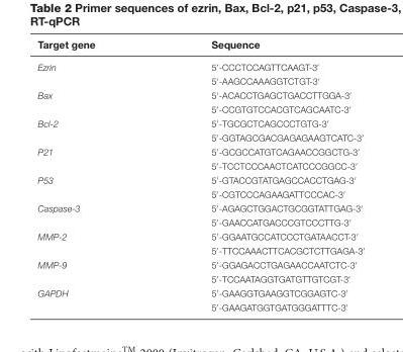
<table><thead><tr><td>Target gene</td><td>Sequence</td></tr></thead><tbody><tr><td rowspan="2">Ezrin</td><td>5′-CCCTCCAGTTCAAGT-3′</td></tr><tr><td>5′-AAGCCAAAGGTCTGT-3′</td></tr><tr><td rowspan="2">Bax</td><td>5′-ACACCTGAGCTGACCTTGGA-3′</td></tr><tr><td>5′-CCGTGTCCACGTCAGCAATC-3′</td></tr><tr><td rowspan="2">Bcl-2</td><td>5′-TGCGCTCAGCCCTGTG-3′</td></tr><tr><td>5′-GGTAGCGACGAGAGAAGTCATC-3′</td></tr><tr><td rowspan="2">P21</td><td>5′-GCGCCATGTCAGAACCGGCTG-3′</td></tr><tr><td>5′-TCCTCCCAACTCATCCCGGCC-3′</td></tr><tr><td rowspan="2">P53</td><td>5′-GTACCGTATGAGCCACCTGAG-3′</td></tr><tr><td>5′-CGTCCCAGAAGATTCCCAC-3′</td></tr><tr><td rowspan="2">Caspase-3</td><td>5′-AGAGCTGGACTGCGGTATTGAG-3′</td></tr><tr><td>5′-GAACCATGACCCGTCCCTTG-3′</td></tr><tr><td rowspan="2">MMP-2</td><td>5′-GGAATGCCATCCCTGATAACCT-3′</td></tr><tr><td>5′-TTCCAAACTTCACGCTCTTGAGA-3′</td></tr><tr><td rowspan="2">MMP-9</td><td>5′-GGAGACCTGAGAACCAATCTC-3′</td></tr><tr><td>5′-TCCAATAGGTGATGTTGTCGT-3′</td></tr><tr><td rowspan="2">GAPDH</td><td>5′-GAAGGTGAAGGTCGGAGTC-3′</td></tr><tr><td>5′-GAAGATGGTGATGGGATTTC-3′</td></tr></tbody></table>